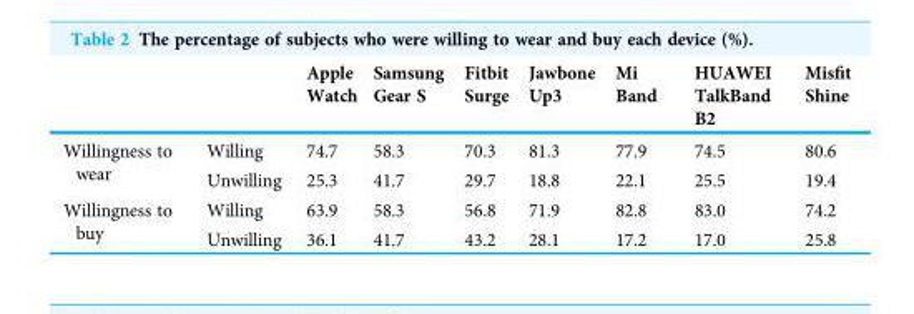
<table><thead><tr><td></td><td></td><td>Apple Watch</td><td>Samsung Gear S</td><td>Fitbit Surge</td><td>Jawbone Up3</td><td>Mi Band</td><td>HUAWEI TalkBand B2</td><td>Misfit Shine</td></tr></thead><tbody><tr><td rowspan="2">Willingness to wear</td><td>Willing</td><td>74.7</td><td>58.3</td><td>70.3</td><td>81.3</td><td>77.9</td><td>74.5</td><td>80.6</td></tr><tr><td>Unwilling</td><td>25.3</td><td>41.7</td><td>29.7</td><td>18.8</td><td>22.1</td><td>25.5</td><td>19.4</td></tr><tr><td rowspan="2">Willingness to buy</td><td>Willing</td><td>63.9</td><td>58.3</td><td>56.8</td><td>71.9</td><td>82.8</td><td>83.0</td><td>74.2</td></tr><tr><td>Unwilling</td><td>36.1</td><td>41.7</td><td>43.2</td><td>28.1</td><td>17.2</td><td>17.0</td><td>25.8</td></tr></tbody></table>